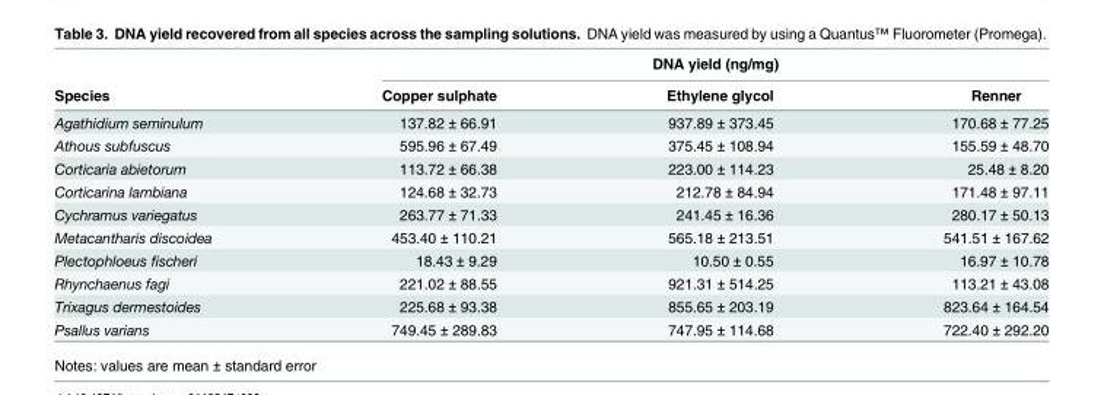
<table><thead><tr><td rowspan="2">Species</td><td colspan="3">DNA yield (ng/mg)</td></tr><tr><td>Copper sulphate</td><td>Ethylene glycol</td><td>Renner</td></tr></thead><tbody><tr><td>Agathidium seminulum</td><td>137.82 ± 66.91</td><td>937.89 ± 373.45</td><td>170.68 ± 77.25</td></tr><tr><td>Athous subfuscus</td><td>595.96 ± 67.49</td><td>375.45 ± 108.94</td><td>155.59 ± 48.70</td></tr><tr><td>Corticaria abietorum</td><td>113.72 ± 66.38</td><td>223.00 ± 114.23</td><td>25.48 ± 8.20</td></tr><tr><td>Corticarina lambiana</td><td>124.68 ± 32.73</td><td>212.78 ± 84.94</td><td>171.48 ± 97.11</td></tr><tr><td>Cychramus variegatus</td><td>263.77 ± 71.33</td><td>241.45 ± 16.36</td><td>280.17 ± 50.13</td></tr><tr><td>Metacantharis discoidea</td><td>453.40 ± 110.21</td><td>565.18 ± 213.51</td><td>541.51 ± 167.62</td></tr><tr><td>Plectophloeus fischeri</td><td>18.43 ± 9.29</td><td>10.50 ± 0.55</td><td>16.97 ± 10.78</td></tr><tr><td>Rhynchaenus fagi</td><td>221.02 ± 88.55</td><td>921.31 ± 514.25</td><td>113.21 ± 43.08</td></tr><tr><td>Trixagus dermestoides</td><td>225.68 ± 93.38</td><td>855.65 ± 203.19</td><td>823.64 ± 164.54</td></tr><tr><td>Psallus varians</td><td>749.45 ± 289.83</td><td>747.95 ± 114.68</td><td>722.40 ± 292.20</td></tr></tbody></table>